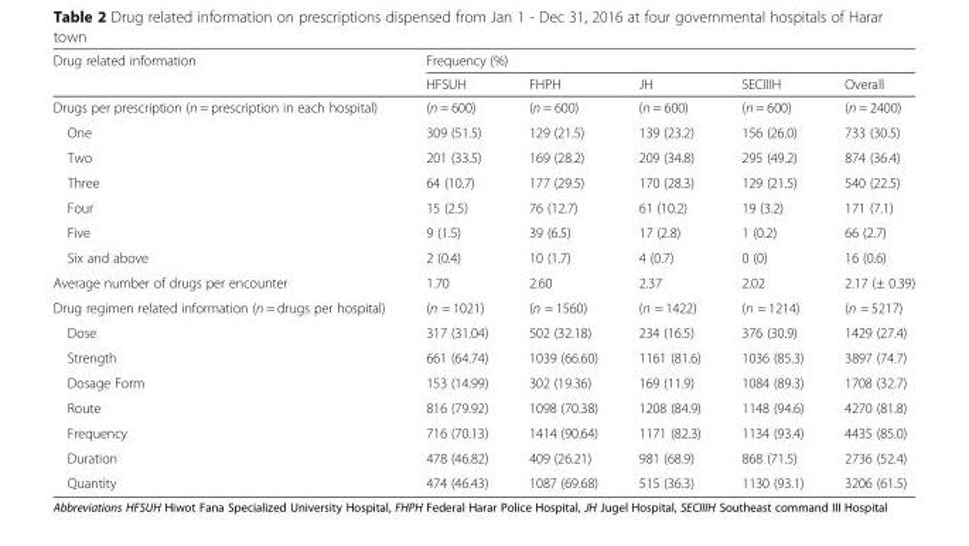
<table><thead><tr><td rowspan="2">Drug related information</td><td colspan="5">Frequency (%)</td></tr><tr><td>HFSUH</td><td>FHPH</td><td>JH</td><td>SECIIIH</td><td>Overall</td></tr></thead><tbody><tr><td>Drugs per prescription (n = prescription in each hospital)</td><td>(n = 600)</td><td>(n = 600)</td><td>(n = 600)</td><td>(n = 600)</td><td>(n = 2400)</td></tr><tr><td>One</td><td>309 (51.5)</td><td>129 (21.5)</td><td>139 (23.2)</td><td>156 (26.0)</td><td>733 (30.5)</td></tr><tr><td>Two</td><td>201 (33.5)</td><td>169 (28.2)</td><td>209 (34.8)</td><td>295 (49.2)</td><td>874 (36.4)</td></tr><tr><td>Three</td><td>64 (10.7)</td><td>177 (29.5)</td><td>170 (28.3)</td><td>129 (21.5)</td><td>540 (22.5)</td></tr><tr><td>Four</td><td>15 (2.5)</td><td>76 (12.7)</td><td>61 (10.2)</td><td>19 (3.2)</td><td>171 (7.1)</td></tr><tr><td>Five</td><td>9 (1.5)</td><td>39 (6.5)</td><td>17 (2.8)</td><td>1 (0.2)</td><td>66 (2.7)</td></tr><tr><td>Six and above</td><td>2 (0.4)</td><td>10 (1.7)</td><td>4 (0.7)</td><td>0 (0)</td><td>16 (0.6)</td></tr><tr><td>Average number of drugs per encounter</td><td>1.70</td><td>2.60</td><td>2.37</td><td>2.02</td><td>2.17 (± 0.39)</td></tr><tr><td>Drug regimen related information (n = drugs per hospital)</td><td>(n = 1021)</td><td>(n = 1560)</td><td>(n = 1422)</td><td>(n = 1214)</td><td>(n = 5217)</td></tr><tr><td>Dose</td><td>317 (31.04)</td><td>502 (32.18)</td><td>234 (16.5)</td><td>376 (30.9)</td><td>1429 (27.4)</td></tr><tr><td>Strength</td><td>661 (64.74)</td><td>1039 (66.60)</td><td>1161 (81.6)</td><td>1036 (85.3)</td><td>3897 (74.7)</td></tr><tr><td>Dosage Form</td><td>153 (14.99)</td><td>302 (19.36)</td><td>169 (11.9)</td><td>1084 (89.3)</td><td>1708 (32.7)</td></tr><tr><td>Route</td><td>816 (79.92)</td><td>1098 (70.38)</td><td>1208 (84.9)</td><td>1148 (94.6)</td><td>4270 (81.8)</td></tr><tr><td>Frequency</td><td>716 (70.13)</td><td>1414 (90.64)</td><td>1171 (82.3)</td><td>1134 (93.4)</td><td>4435 (85.0)</td></tr><tr><td>Duration</td><td>478 (46.82)</td><td>409 (26.21)</td><td>981 (68.9)</td><td>868 (71.5)</td><td>2736 (52.4)</td></tr><tr><td>Quantity</td><td>474 (46.43)</td><td>1087 (69.68)</td><td>515 (36.3)</td><td>1130 (93.1)</td><td>3206 (61.5)</td></tr></tbody></table>